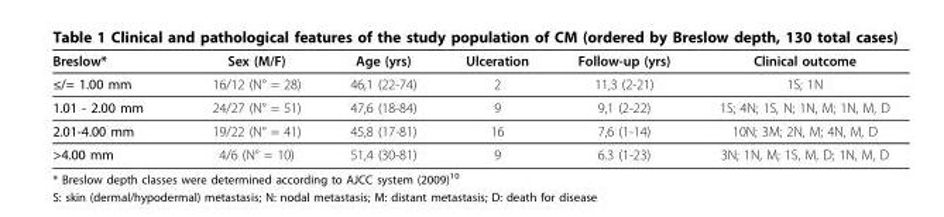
<table><thead><tr><td>Breslow*</td><td>Sex (M/F)</td><td>Age (yrs)</td><td>Ulceration</td><td>Follow-up (yrs)</td><td>Clinical outcome</td></tr></thead><tbody><tr><td>≤/= 1.00 mm</td><td>16/12 (N° = 28)</td><td>46,1 (22-74)</td><td>2</td><td>11,3 (2-21)</td><td>1S; 1N</td></tr><tr><td>1.01 - 2.00 mm</td><td>24/27 (N° = 51)</td><td>47,6 (18-84)</td><td>9</td><td>9,1 (2-22)</td><td>1S; 4N; 1S, N; 1N, M; 1N, M, D</td></tr><tr><td>2.01-4.00 mm</td><td>19/22 (N° = 41)</td><td>45,8 (17-81)</td><td>16</td><td>7,6 (1-14)</td><td>10N; 3M; 2N, M; 4N, M, D</td></tr><tr><td>&gt;4.00 mm</td><td>4/6 (N° = 10)</td><td>51,4 (30-81)</td><td>9</td><td>6.3 (1-23)</td><td>3N; 1N, M; 1S, M, D; 1N, M, D</td></tr></tbody></table>